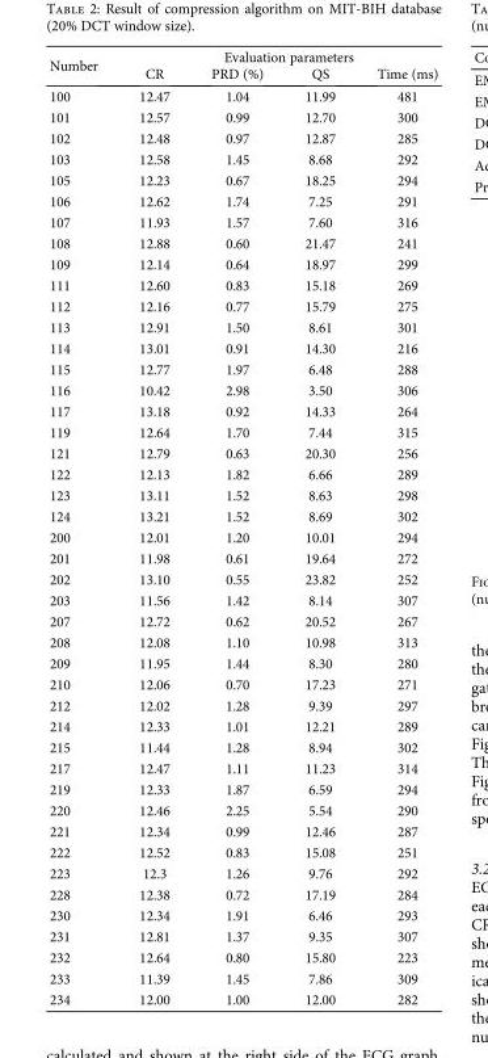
<table><thead><tr><td rowspan="2">Number</td><td colspan="4">Evaluation parameters</td></tr><tr><td>CR</td><td>PRD (%)</td><td>QS</td><td>Time (ms)</td></tr></thead><tbody><tr><td>100</td><td>12.47</td><td>1.04</td><td>11.99</td><td>481</td></tr><tr><td>101</td><td>12.57</td><td>0.99</td><td>12.70</td><td>300</td></tr><tr><td>102</td><td>12.48</td><td>0.97</td><td>12.87</td><td>285</td></tr><tr><td>103</td><td>12.58</td><td>1.45</td><td>8.68</td><td>292</td></tr><tr><td>105</td><td>12.23</td><td>0.67</td><td>18.25</td><td>294</td></tr><tr><td>106</td><td>12.62</td><td>1.74</td><td>7.25</td><td>291</td></tr><tr><td>107</td><td>11.93</td><td>1.57</td><td>7.60</td><td>316</td></tr><tr><td>108</td><td>12.88</td><td>0.60</td><td>21.47</td><td>241</td></tr><tr><td>109</td><td>12.14</td><td>0.64</td><td>18.97</td><td>299</td></tr><tr><td>111</td><td>12.60</td><td>0.83</td><td>15.18</td><td>269</td></tr><tr><td>112</td><td>12.16</td><td>0.77</td><td>15.79</td><td>275</td></tr><tr><td>113</td><td>12.91</td><td>1.50</td><td>8.61</td><td>301</td></tr><tr><td>114</td><td>13.01</td><td>0.91</td><td>14.30</td><td>216</td></tr><tr><td>115</td><td>12.77</td><td>1.97</td><td>6.48</td><td>288</td></tr><tr><td>116</td><td>10.42</td><td>2.98</td><td>3.50</td><td>306</td></tr><tr><td>117</td><td>13.18</td><td>0.92</td><td>14.33</td><td>264</td></tr><tr><td>119</td><td>12.64</td><td>1.70</td><td>7.44</td><td>315</td></tr><tr><td>121</td><td>12.79</td><td>0.63</td><td>20.30</td><td>256</td></tr><tr><td>122</td><td>12.13</td><td>1.82</td><td>6.66</td><td>289</td></tr><tr><td>123</td><td>13.11</td><td>1.52</td><td>8.63</td><td>298</td></tr><tr><td>124</td><td>13.21</td><td>1.52</td><td>8.69</td><td>302</td></tr><tr><td>200</td><td>12.01</td><td>1.20</td><td>10.01</td><td>294</td></tr><tr><td>201</td><td>11.98</td><td>0.61</td><td>19.64</td><td>272</td></tr><tr><td>202</td><td>13.10</td><td>0.55</td><td>23.82</td><td>252</td></tr><tr><td>203</td><td>11.56</td><td>1.42</td><td>8.14</td><td>307</td></tr><tr><td>207</td><td>12.72</td><td>0.62</td><td>20.52</td><td>267</td></tr><tr><td>208</td><td>12.08</td><td>1.10</td><td>10.98</td><td>313</td></tr><tr><td>209</td><td>11.95</td><td>1.44</td><td>8.30</td><td>280</td></tr><tr><td>210</td><td>12.06</td><td>0.70</td><td>17.23</td><td>271</td></tr><tr><td>212</td><td>12.02</td><td>1.28</td><td>9.39</td><td>297</td></tr><tr><td>214</td><td>12.33</td><td>1.01</td><td>12.21</td><td>289</td></tr><tr><td>215</td><td>11.44</td><td>1.28</td><td>8.94</td><td>302</td></tr><tr><td>217</td><td>12.47</td><td>1.11</td><td>11.23</td><td>314</td></tr><tr><td>219</td><td>12.33</td><td>1.87</td><td>6.59</td><td>294</td></tr><tr><td>220</td><td>12.46</td><td>2.25</td><td>5.54</td><td>290</td></tr><tr><td>221</td><td>12.34</td><td>0.99</td><td>12.46</td><td>287</td></tr><tr><td>222</td><td>12.52</td><td>0.83</td><td>15.08</td><td>251</td></tr><tr><td>223</td><td>12.3</td><td>1.26</td><td>9.76</td><td>292</td></tr><tr><td>228</td><td>12.38</td><td>0.72</td><td>17.19</td><td>284</td></tr><tr><td>230</td><td>12.34</td><td>1.91</td><td>6.46</td><td>293</td></tr><tr><td>231</td><td>12.81</td><td>1.37</td><td>9.35</td><td>307</td></tr><tr><td>232</td><td>12.64</td><td>0.80</td><td>15.80</td><td>223</td></tr><tr><td>233</td><td>11.39</td><td>1.45</td><td>7.86</td><td>309</td></tr><tr><td>234</td><td>12.00</td><td>1.00</td><td>12.00</td><td>282</td></tr></tbody></table>